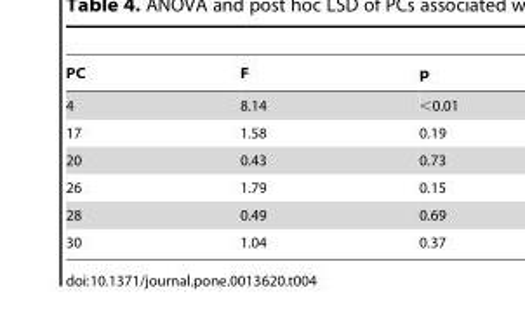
<table><thead><tr><td>PC</td><td>F</td><td>p</td></tr></thead><tbody><tr><td>4</td><td>8.14</td><td>&lt;0.01</td></tr><tr><td>17</td><td>1.58</td><td>0.19</td></tr><tr><td>20</td><td>0.43</td><td>0.73</td></tr><tr><td>26</td><td>1.79</td><td>0.15</td></tr><tr><td>28</td><td>0.49</td><td>0.69</td></tr><tr><td>30</td><td>1.04</td><td>0.37</td></tr></tbody></table>